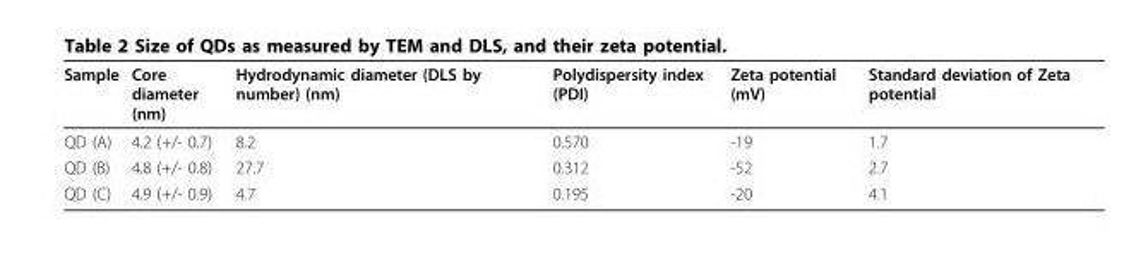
<table><thead><tr><td>Sample</td><td>Core diameter (nm)</td><td>Hydrodynamic diameter (DLS by number) (nm)</td><td>Polydispersity index (PDI)</td><td>Zeta potential (mV)</td><td>Standard deviation of Zeta potential</td></tr></thead><tbody><tr><td>QD (A)</td><td>4.2 (+/- 0.7)</td><td>8.2</td><td>0.570</td><td>-19</td><td>1.7</td></tr><tr><td>QD (B)</td><td>4.8 (+/- 0.8)</td><td>27.7</td><td>0.312</td><td>-52</td><td>2.7</td></tr><tr><td>QD (C)</td><td>4.9 (+/- 0.9)</td><td>4.7</td><td>0.195</td><td>-20</td><td>4.1</td></tr></tbody></table>